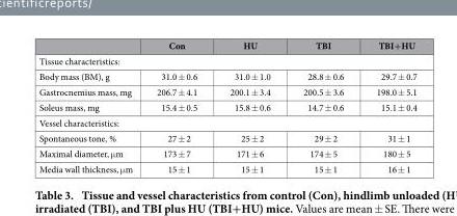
<table><thead><tr><td></td><td>Con</td><td>HU</td><td>TBI</td><td>TBI+HU</td></tr></thead><tbody><tr><td colspan="5">Tissue characteristics:</td></tr><tr><td>Body mass (BM), g</td><td>31.0 ± 0.6</td><td>31.0 ± 1.0</td><td>28.8 ± 0.6</td><td>29.7 ± 0.7</td></tr><tr><td>Gastrocnemius mass, mg</td><td>206.7 ± 4.1</td><td>200.1 ± 3.4</td><td>200.5 ± 3.6</td><td>198.0 ± 5.1</td></tr><tr><td>Soleus mass, mg</td><td>15.4 ± 0.5</td><td>15.8 ± 0.6</td><td>14.7 ± 0.6</td><td>15.1 ± 0.4</td></tr><tr><td colspan="5">Vessel characteristics:</td></tr><tr><td>Spontaneous tone, %</td><td>27 ± 2</td><td>25 ± 2</td><td>29 ± 2</td><td>31 ± 1</td></tr><tr><td>Maximal diameter, μ m</td><td>173 ± 7</td><td>171 ± 6</td><td>174 ± 5</td><td>180 ± 5</td></tr><tr><td>Media wall thickness, μ m</td><td>15 ± 1</td><td>15 ± 1</td><td>15 ± 1</td><td>16 ± 1</td></tr></tbody></table>